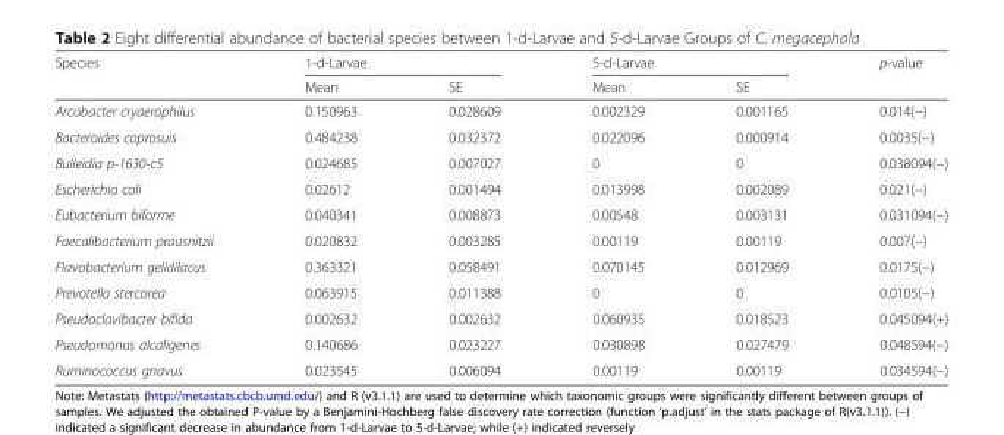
<table><thead><tr><td rowspan="2">Species</td><td colspan="2">1-d-Larvae</td><td colspan="2">5-d-Larvae</td><td rowspan="2">p-value</td></tr><tr><td>Mean</td><td>SE</td><td>Mean</td><td>SE</td></tr></thead><tbody><tr><td>Arcobacter cryaerophilus</td><td>0.150963</td><td>0.028609</td><td>0.002329</td><td>0.001165</td><td>0.014(−)</td></tr><tr><td>Bacteroides coprosuis</td><td>0.484238</td><td>0.032372</td><td>0.022096</td><td>0.000914</td><td>0.0035(−)</td></tr><tr><td>Bulleidia p-1630-c5</td><td>0.024685</td><td>0.007027</td><td>0</td><td>0</td><td>0.038094(−)</td></tr><tr><td>Escherichia coli</td><td>0.02612</td><td>0.001494</td><td>0.013998</td><td>0.002089</td><td>0.021(−)</td></tr><tr><td>Eubacterium biforme</td><td>0.040341</td><td>0.008873</td><td>0.00548</td><td>0.003131</td><td>0.031094(−)</td></tr><tr><td>Faecalibacterium prausnitzii</td><td>0.020832</td><td>0.003285</td><td>0.00119</td><td>0.00119</td><td>0.007(−)</td></tr><tr><td>Flavobacterium gelidilacus</td><td>0.363321</td><td>0.058491</td><td>0.070145</td><td>0.012969</td><td>0.0175(−)</td></tr><tr><td>Prevotella stercorea</td><td>0.063915</td><td>0.011388</td><td>0</td><td>0</td><td>0.0105(−)</td></tr><tr><td>Pseudoclavibacter bifida</td><td>0.002632</td><td>0.002632</td><td>0.060935</td><td>0.018523</td><td>0.045094(+)</td></tr><tr><td>Pseudomonas alcaligenes</td><td>0.140686</td><td>0.023227</td><td>0.030898</td><td>0.027479</td><td>0.048594(−)</td></tr><tr><td>Ruminococcus gnavus</td><td>0.023545</td><td>0.006094</td><td>0.00119</td><td>0.00119</td><td>0.034594(−)</td></tr></tbody></table>